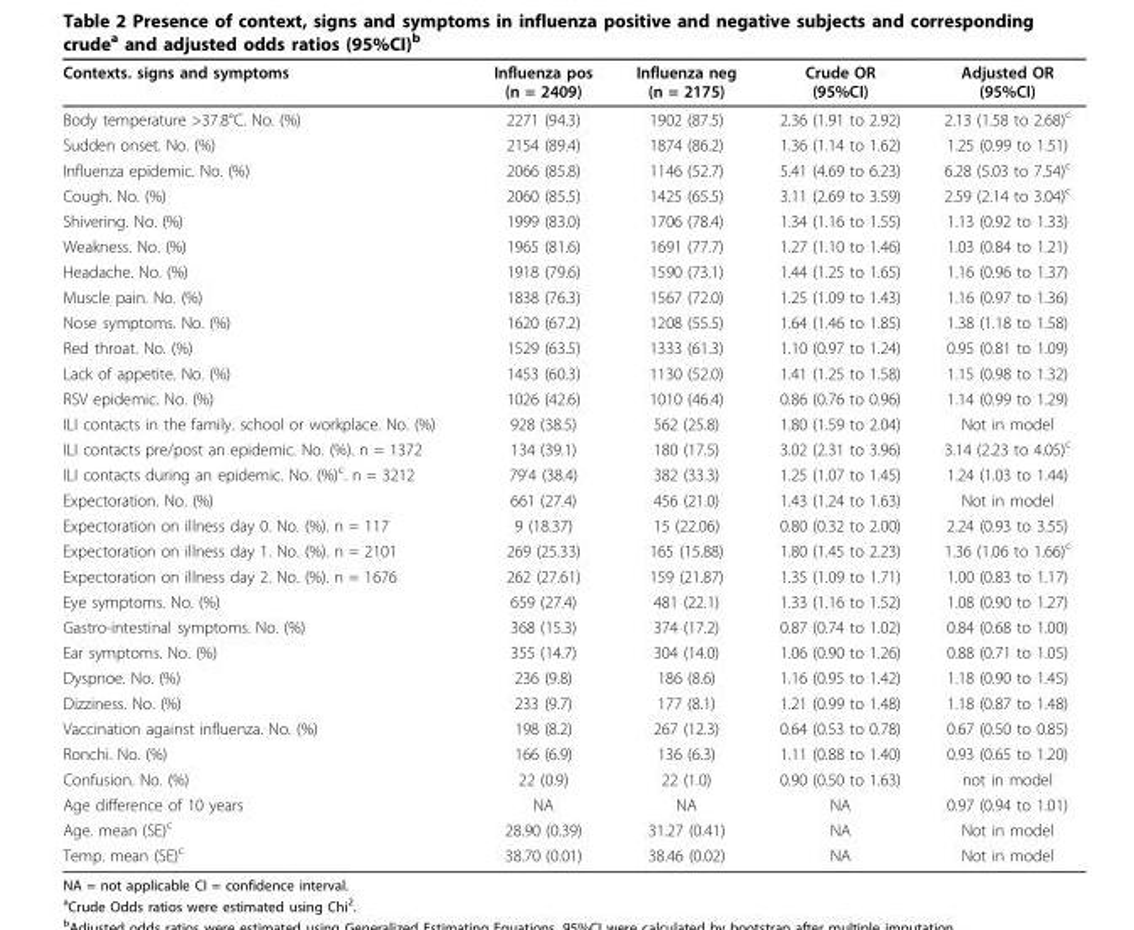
<table><thead><tr><td>Contexts. signs and symptoms</td><td>Influenza pos (n = 2409)</td><td>Influenza neg (n = 2175)</td><td>Crude OR (95%CI)</td><td>Adjusted OR (95%CI)</td></tr></thead><tbody><tr><td>Body temperature &gt;37.8°C. No. (%)</td><td>2271 (94.3)</td><td>1902 (87.5)</td><td>2.36 (1.91 to 2.92)</td><td>2.13 (1.58 to 2.68)<sup>c</sup></td></tr><tr><td>Sudden onset. No. (%)</td><td>2154 (89.4)</td><td>1874 (86.2)</td><td>1.36 (1.14 to 1.62)</td><td>1.25 (0.99 to 1.51)</td></tr><tr><td>Influenza epidemic. No. (%)</td><td>2066 (85.8)</td><td>1146 (52.7)</td><td>5.41 (4.69 to 6.23)</td><td>6.28 (5.03 to 7.54)<sup>c</sup></td></tr><tr><td>Cough. No. (%)</td><td>2060 (85.5)</td><td>1425 (65.5)</td><td>3.11 (2.69 to 3.59)</td><td>2.59 (2.14 to 3.04)<sup>c</sup></td></tr><tr><td>Shivering. No. (%)</td><td>1999 (83.0)</td><td>1706 (78.4)</td><td>1.34 (1.16 to 1.55)</td><td>1.13 (0.92 to 1.33)</td></tr><tr><td>Weakness. No. (%)</td><td>1965 (81.6)</td><td>1691 (77.7)</td><td>1.27 (1.10 to 1.46)</td><td>1.03 (0.84 to 1.21)</td></tr><tr><td>Headache. No. (%)</td><td>1918 (79.6)</td><td>1590 (73.1)</td><td>1.44 (1.25 to 1.65)</td><td>1.16 (0.96 to 1.37)</td></tr><tr><td>Muscle pain. No. (%)</td><td>1838 (76.3)</td><td>1567 (72.0)</td><td>1.25 (1.09 to 1.43)</td><td>1.16 (0.97 to 1.36)</td></tr><tr><td>Nose symptoms. No. (%)</td><td>1620 (67.2)</td><td>1208 (55.5)</td><td>1.64 (1.46 to 1.85)</td><td>1.38 (1.18 to 1.58)</td></tr><tr><td>Red throat. No. (%)</td><td>1529 (63.5)</td><td>1333 (61.3)</td><td>1.10 (0.97 to 1.24)</td><td>0.95 (0.81 to 1.09)</td></tr><tr><td>Lack of appetite. No. (%)</td><td>1453 (60.3)</td><td>1130 (52.0)</td><td>1.41 (1.25 to 1.58)</td><td>1.15 (0.98 to 1.32)</td></tr><tr><td>RSV epidemic. No. (%)</td><td>1026 (42.6)</td><td>1010 (46.4)</td><td>0.86 (0.76 to 0.96)</td><td>1.14 (0.99 to 1.29)</td></tr><tr><td>ILI contacts in the family. school or workplace. No. (%)</td><td>928 (38.5)</td><td>562 (25.8)</td><td>1.80 (1.59 to 2.04)</td><td>Not in model</td></tr><tr><td>ILI contacts pre/post an epidemic. No. (%). n = 1372</td><td>134 (39.1)</td><td>180 (17.5)</td><td>3.02 (2.31 to 3.96)</td><td>3.14 (2.23 to 4.05)<sup>c</sup></td></tr><tr><td>ILI contacts during an epidemic. No. (%)<sup>c</sup>. n = 3212</td><td>79’4 (38.4)</td><td>382 (33.3)</td><td>1.25 (1.07 to 1.45)</td><td>1.24 (1.03 to 1.44)</td></tr><tr><td>Expectoration. No. (%)</td><td>661 (27.4)</td><td>456 (21.0)</td><td>1.43 (1.24 to 1.63)</td><td>Not in model</td></tr><tr><td>Expectoration on illness day 0. No. (%). n = 117</td><td>9 (18.37)</td><td>15 (22.06)</td><td>0.80 (0.32 to 2.00)</td><td>2.24 (0.93 to 3.55)</td></tr><tr><td>Expectoration on illness day 1. No. (%). n = 2101</td><td>269 (25.33)</td><td>165 (15.88)</td><td>1.80 (1.45 to 2.23)</td><td>1.36 (1.06 to 1.66)<sup>c</sup></td></tr><tr><td>Expectoration on illness day 2. No. (%). n = 1676</td><td>262 (27.61)</td><td>159 (21.87)</td><td>1.35 (1.09 to 1.71)</td><td>1.00 (0.83 to 1.17)</td></tr><tr><td>Eye symptoms. No. (%)</td><td>659 (27.4)</td><td>481 (22.1)</td><td>1.33 (1.16 to 1.52)</td><td>1.08 (0.90 to 1.27)</td></tr><tr><td>Gastro-intestinal symptoms. No. (%)</td><td>368 (15.3)</td><td>374 (17.2)</td><td>0.87 (0.74 to 1.02)</td><td>0.84 (0.68 to 1.00)</td></tr><tr><td>Ear symptoms. No. (%)</td><td>355 (14.7)</td><td>304 (14.0)</td><td>1.06 (0.90 to 1.26)</td><td>0.88 (0.71 to 1.05)</td></tr><tr><td>Dyspnoe. No. (%)</td><td>236 (9.8)</td><td>186 (8.6)</td><td>1.16 (0.95 to 1.42)</td><td>1.18 (0.90 to 1.45)</td></tr><tr><td>Dizziness. No. (%)</td><td>233 (9.7)</td><td>177 (8.1)</td><td>1.21 (0.99 to 1.48)</td><td>1.18 (0.87 to 1.48)</td></tr><tr><td>Vaccination against influenza. No. (%)</td><td>198 (8.2)</td><td>267 (12.3)</td><td>0.64 (0.53 to 0.78)</td><td>0.67 (0.50 to 0.85)</td></tr><tr><td>Ronchi. No. (%)</td><td>166 (6.9)</td><td>136 (6.3)</td><td>1.11 (0.88 to 1.40)</td><td>0.93 (0.65 to 1.20)</td></tr><tr><td>Confusion. No. (%)</td><td>22 (0.9)</td><td>22 (1.0)</td><td>0.90 (0.50 to 1.63)</td><td>not in model</td></tr><tr><td>Age difference of 10 years</td><td>NA</td><td>NA</td><td>NA</td><td>0.97 (0.94 to 1.01)</td></tr><tr><td>Age. mean (SE)<sup>c</sup></td><td>28.90 (0.39)</td><td>31.27 (0.41)</td><td>NA</td><td>Not in model</td></tr><tr><td>Temp. mean (SE)<sup>c</sup></td><td>38.70 (0.01)</td><td>38.46 (0.02)</td><td>NA</td><td>Not in model</td></tr></tbody></table>